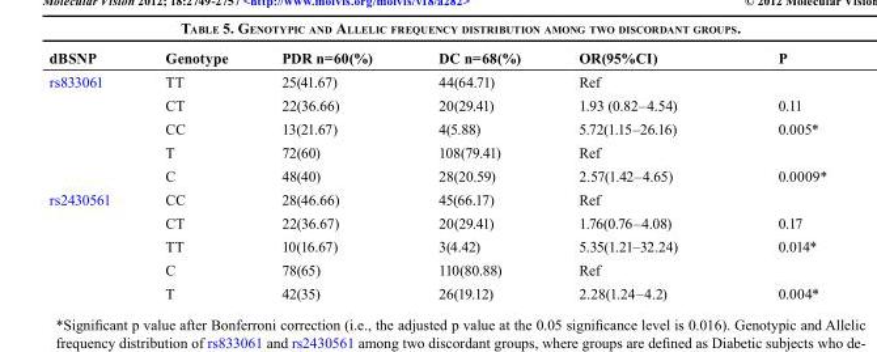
<table><thead><tr><td>dBSNP</td><td>Genotype</td><td>PDR n=60(%)</td><td>DC n=68(%)</td><td>OR(95%CI)</td><td>P</td></tr></thead><tbody><tr><td rowspan="5">rs833061</td><td>TT</td><td>25(41.67)</td><td>44(64.71)</td><td>Ref</td><td></td></tr><tr><td>CT</td><td>22(36.66)</td><td>20(29.41)</td><td>1.93 (0.82–4.54)</td><td>0.11</td></tr><tr><td>CC</td><td>13(21.67)</td><td>4(5.88)</td><td>5.72(1.15–26.16)</td><td>0.005*</td></tr><tr><td>T</td><td>72(60)</td><td>108(79.41)</td><td>Ref</td><td></td></tr><tr><td>C</td><td>48(40)</td><td>28(20.59)</td><td>2.57(1.42–4.65)</td><td>0.0009*</td></tr><tr><td rowspan="5">rs2430561</td><td>CC</td><td>28(46.66)</td><td>45(66.17)</td><td>Ref</td><td></td></tr><tr><td>CT</td><td>22(36.67)</td><td>20(29.41)</td><td>1.76(0.76–4.08)</td><td>0.17</td></tr><tr><td>TT</td><td>10(16.67)</td><td>3(4.42)</td><td>5.35(1.21–32.24)</td><td>0.014*</td></tr><tr><td>C</td><td>78(65)</td><td>110(80.88)</td><td>Ref</td><td></td></tr><tr><td>T</td><td>42(35)</td><td>26(19.12)</td><td>2.28(1.24–4.2)</td><td>0.004*</td></tr></tbody></table>